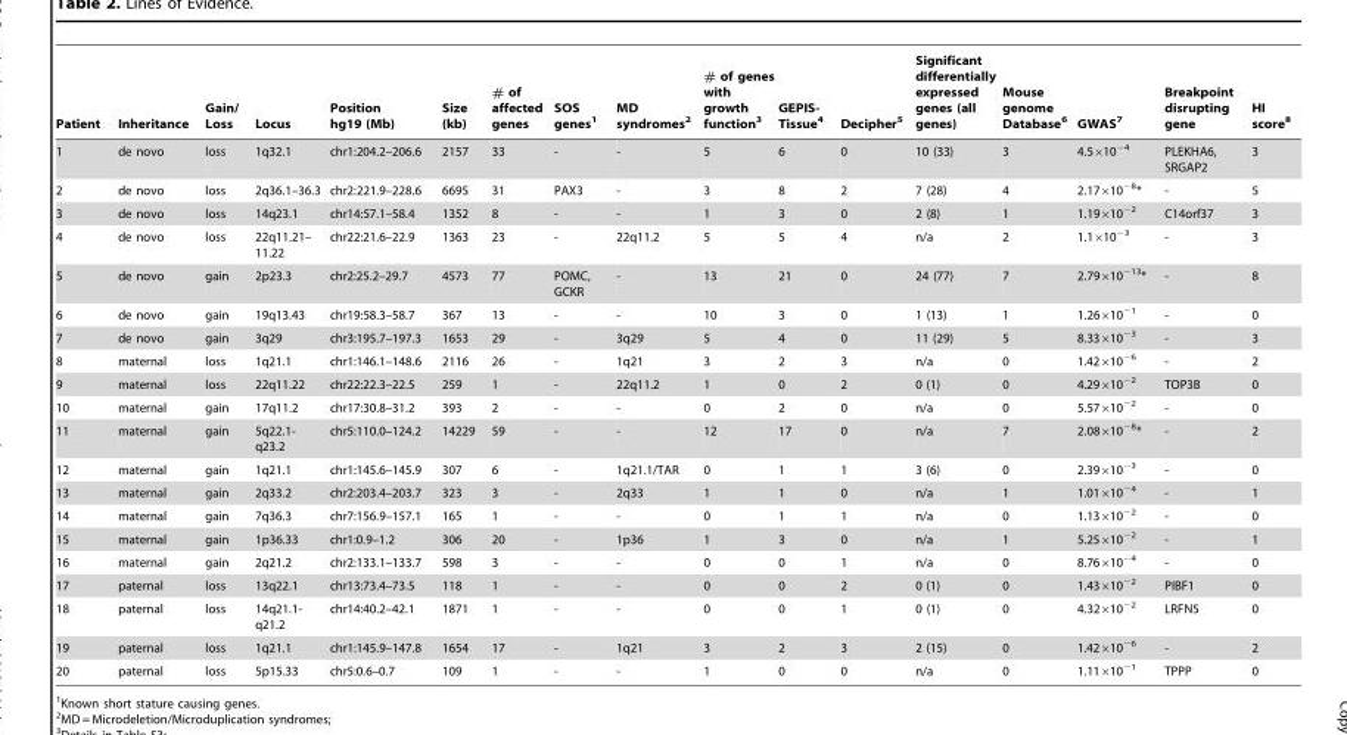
<table><thead><tr><td>Patient</td><td>Inheritance</td><td>Gain/ Loss</td><td>Locus</td><td>Position hg19 (Mb)</td><td>Size (kb)</td><td># of affected genes</td><td>SOS genes<sup>1</sup></td><td>MD syndromes<sup>2</sup></td><td># of genes with growth function<sup>3</sup></td><td>GEPIS- Tissue<sup>4</sup></td><td>Decipher<sup>5</sup></td><td>Significant differentially expressed genes (all genes)</td><td>Mouse genome Database<sup>6</sup></td><td>GWAS<sup>7</sup></td><td>Breakpoint disrupting gene</td><td>HI score<sup>8</sup></td></tr></thead><tbody><tr><td>1</td><td>de novo</td><td>loss</td><td>1q32.1</td><td>chr1:204.2–206.6</td><td>2157</td><td>33</td><td>-</td><td>-</td><td>5</td><td>6</td><td>0</td><td>10 (33)</td><td>3</td><td>4.5×10<sup>−4</sup></td><td>PLEKHA6, SRGAP2</td><td>3</td></tr><tr><td>2</td><td>de novo</td><td>loss</td><td>2q36.1–36.3</td><td>chr2:221.9–228.6</td><td>6695</td><td>31</td><td>PAX3</td><td>-</td><td>3</td><td>8</td><td>2</td><td>7 (28)</td><td>4</td><td>2.17×10<sup>−8</sup>*</td><td>-</td><td>5</td></tr><tr><td>3</td><td>de novo</td><td>loss</td><td>14q23.1</td><td>chr14:57.1–58.4</td><td>1352</td><td>8</td><td>-</td><td>-</td><td>1</td><td>3</td><td>0</td><td>2 (8)</td><td>1</td><td>1.19×10<sup>−2</sup></td><td>C14orf37</td><td>3</td></tr><tr><td>4</td><td>de novo</td><td>loss</td><td>22q11.21– 11.22</td><td>chr22:21.6–22.9</td><td>1363</td><td>23</td><td>-</td><td>22q11.2</td><td>5</td><td>5</td><td>4</td><td>n/a</td><td>2</td><td>1.1×10<sup>−3</sup></td><td>-</td><td>3</td></tr><tr><td>5</td><td>de novo</td><td>gain</td><td>2p23.3</td><td>chr2:25.2–29.7</td><td>4573</td><td>77</td><td>POMC, GCKR</td><td>-</td><td>13</td><td>21</td><td>0</td><td>24 (77)</td><td>7</td><td>2.79×10<sup>−13</sup>*</td><td>-</td><td>8</td></tr><tr><td>6</td><td>de novo</td><td>gain</td><td>19q13.43</td><td>chr19:58.3–58.7</td><td>367</td><td>13</td><td>-</td><td>-</td><td>10</td><td>3</td><td>0</td><td>1 (13)</td><td>1</td><td>1.26×10<sup>−1</sup></td><td>-</td><td>0</td></tr><tr><td>7</td><td>de novo</td><td>gain</td><td>3q29</td><td>chr3:195.7–197.3</td><td>1653</td><td>29</td><td>-</td><td>3q29</td><td>5</td><td>4</td><td>0</td><td>11 (29)</td><td>5</td><td>8.33×10<sup>−3</sup></td><td>-</td><td>3</td></tr><tr><td>8</td><td>maternal</td><td>loss</td><td>1q21.1</td><td>chr1:146.1–148.6</td><td>2116</td><td>26</td><td>-</td><td>1q21</td><td>3</td><td>2</td><td>3</td><td>n/a</td><td>0</td><td>1.42×10<sup>−6</sup></td><td>-</td><td>2</td></tr><tr><td>9</td><td>maternal</td><td>loss</td><td>22q11.22</td><td>chr22:22.3–22.5</td><td>259</td><td>1</td><td>-</td><td>22q11.2</td><td>1</td><td>0</td><td>2</td><td>0 (1)</td><td>0</td><td>4.29×10<sup>−2</sup></td><td>TOP3B</td><td>0</td></tr><tr><td>10</td><td>maternal</td><td>gain</td><td>17q11.2</td><td>chr17:30.8–31.2</td><td>393</td><td>2</td><td>-</td><td>-</td><td>0</td><td>2</td><td>0</td><td>n/a</td><td>0</td><td>5.57×10<sup>−2</sup></td><td>-</td><td>0</td></tr><tr><td>11</td><td>maternal</td><td>gain</td><td>5q22.1- q23.2</td><td>chr5:110.0–124.2</td><td>14229</td><td>59</td><td>-</td><td>-</td><td>12</td><td>17</td><td>0</td><td>n/a</td><td>7</td><td>2.08×10<sup>−8</sup>*</td><td>-</td><td>2</td></tr><tr><td>12</td><td>maternal</td><td>gain</td><td>1q21.1</td><td>chr1:145.6–145.9</td><td>307</td><td>6</td><td>-</td><td>1q21.1/TAR</td><td>0</td><td>1</td><td>1</td><td>3 (6)</td><td>0</td><td>2.39×10<sup>−3</sup></td><td>-</td><td>0</td></tr><tr><td>13</td><td>maternal</td><td>gain</td><td>2q33.2</td><td>chr2:203.4–203.7</td><td>323</td><td>3</td><td>-</td><td>2q33</td><td>1</td><td>1</td><td>0</td><td>n/a</td><td>1</td><td>1.01×10<sup>−4</sup></td><td>-</td><td>1</td></tr><tr><td>14</td><td>maternal</td><td>gain</td><td>7q36.3</td><td>chr7:156.9–157.1</td><td>165</td><td>1</td><td>-</td><td>-</td><td>0</td><td>1</td><td>1</td><td>n/a</td><td>0</td><td>1.13×10<sup>−2</sup></td><td>-</td><td>0</td></tr><tr><td>15</td><td>maternal</td><td>gain</td><td>1p36.33</td><td>chr1:0.9–1.2</td><td>306</td><td>20</td><td>-</td><td>1p36</td><td>1</td><td>3</td><td>0</td><td>n/a</td><td>1</td><td>5.25×10<sup>−2</sup></td><td>-</td><td>1</td></tr><tr><td>16</td><td>maternal</td><td>gain</td><td>2q21.2</td><td>chr2:133.1–133.7</td><td>598</td><td>3</td><td>-</td><td>-</td><td>0</td><td>0</td><td>1</td><td>n/a</td><td>0</td><td>8.76×10<sup>−4</sup></td><td>-</td><td>0</td></tr><tr><td>17</td><td>paternal</td><td>loss</td><td>13q22.1</td><td>chr13:73.4–73.5</td><td>118</td><td>1</td><td>-</td><td>-</td><td>0</td><td>0</td><td>2</td><td>0 (1)</td><td>0</td><td>1.43×10<sup>−2</sup></td><td>PIBF1</td><td>0</td></tr><tr><td>18</td><td>paternal</td><td>loss</td><td>14q21.1- q21.2</td><td>chr14:40.2–42.1</td><td>1871</td><td>1</td><td>-</td><td>-</td><td>0</td><td>0</td><td>1</td><td>0 (1)</td><td>0</td><td>4.32×10<sup>−2</sup></td><td>LRFN5</td><td>0</td></tr><tr><td>19</td><td>paternal</td><td>loss</td><td>1q21.1</td><td>chr1:145.9–147.8</td><td>1654</td><td>17</td><td>-</td><td>1q21</td><td>3</td><td>2</td><td>3</td><td>2 (15)</td><td>0</td><td>1.42×10<sup>−6</sup></td><td>-</td><td>2</td></tr><tr><td>20</td><td>paternal</td><td>loss</td><td>5p15.33</td><td>chr5:0.6–0.7</td><td>109</td><td>1</td><td>-</td><td>-</td><td>1</td><td>0</td><td>0</td><td>n/a</td><td>0</td><td>1.11×10<sup>−1</sup></td><td>TPPP</td><td>0</td></tr></tbody></table>